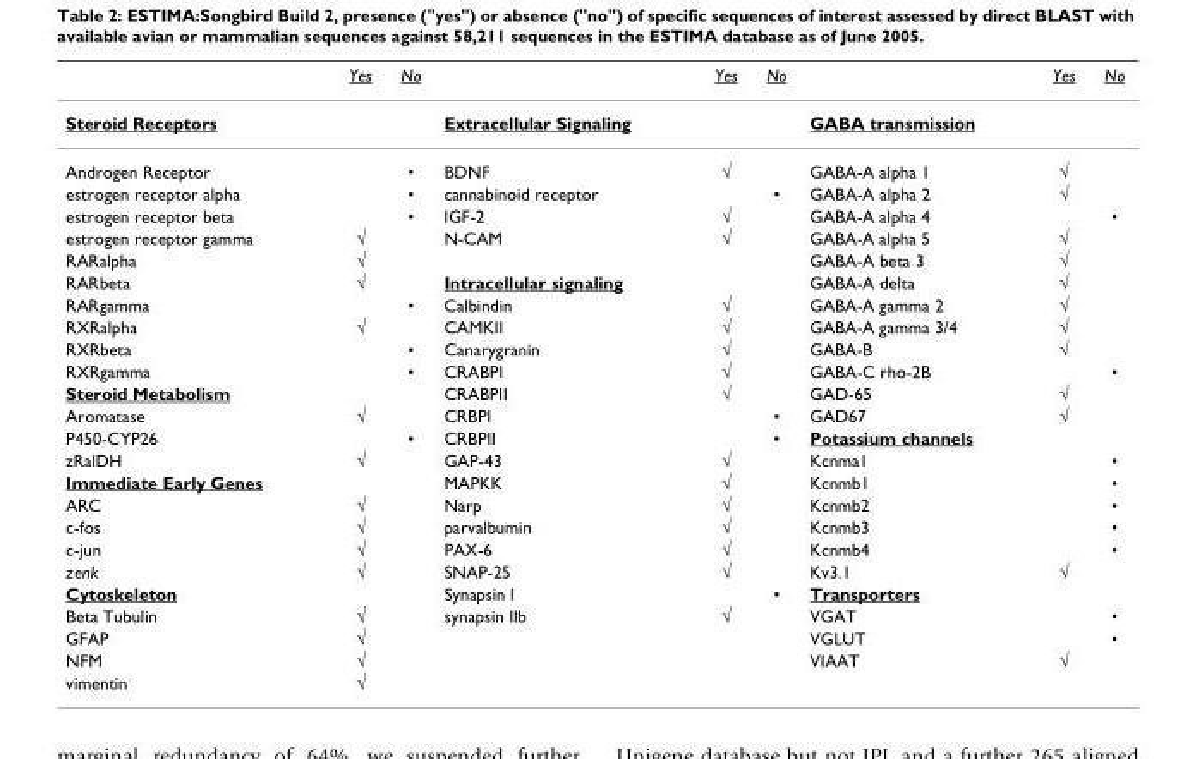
<table><thead><tr><td></td><td>Yes</td><td>No</td><td></td><td>Yes</td><td>No</td><td></td><td>Yes</td><td>No</td></tr></thead><tbody><tr><td>Steroid Receptors</td><td></td><td></td><td>Extracellular Signaling</td><td></td><td></td><td>GABA transmission</td><td></td><td></td></tr><tr><td>Androgen Receptor</td><td></td><td>•</td><td>BDNF</td><td>√</td><td></td><td>GABA-A alpha 1</td><td>√</td><td></td></tr><tr><td>estrogen receptor alpha</td><td></td><td>•</td><td>cannabinoid receptor</td><td></td><td>•</td><td>GABA-A alpha 2</td><td>√</td><td></td></tr><tr><td>estrogen receptor beta</td><td></td><td>•</td><td>IGF-2</td><td>√</td><td></td><td>GABA-A alpha 4</td><td></td><td>•</td></tr><tr><td>estrogen receptor gamma</td><td>√</td><td></td><td>N-CAM</td><td>√</td><td></td><td>GABA-A alpha 5</td><td>√</td><td></td></tr><tr><td>RARalpha</td><td>√</td><td></td><td></td><td></td><td></td><td>GABA-A beta 3</td><td>√</td><td></td></tr><tr><td>RARbeta</td><td>√</td><td></td><td>Intracellular signaling</td><td></td><td></td><td>GABA-A delta</td><td>√</td><td></td></tr><tr><td>RARgamma</td><td></td><td>•</td><td>Calbindin</td><td>√</td><td></td><td>GABA-A gamma 2</td><td>√</td><td></td></tr><tr><td>RXRalpha</td><td>√</td><td></td><td>CAMKII</td><td>√</td><td></td><td>GABA-A gamma 3/4</td><td>√</td><td></td></tr><tr><td>RXRbeta</td><td></td><td>•</td><td>Canarygranin</td><td>√</td><td></td><td>GABA-B</td><td>√</td><td></td></tr><tr><td>RXRgamma</td><td></td><td>•</td><td>CRABPI</td><td>√</td><td></td><td>GABA-C rho-2B</td><td></td><td>•</td></tr><tr><td>Steroid Metabolism</td><td></td><td></td><td>CRABPII</td><td>√</td><td></td><td>GAD-65</td><td>√</td><td></td></tr><tr><td>Aromatase</td><td>√</td><td></td><td>CRBPI</td><td></td><td>•</td><td>GAD67</td><td>√</td><td></td></tr><tr><td>P450-CYP26</td><td></td><td>•</td><td>CRBPII</td><td></td><td>•</td><td>Potassium channels</td><td></td><td></td></tr><tr><td>zRalDH</td><td>√</td><td></td><td>GAP-43</td><td>√</td><td></td><td>Kcnma1</td><td></td><td>•</td></tr><tr><td>Immediate Early Genes</td><td></td><td></td><td>MAPKK</td><td>√</td><td></td><td>Kcnmb1</td><td></td><td>•</td></tr><tr><td>ARC</td><td>√</td><td></td><td>Narp</td><td>√</td><td></td><td>Kcnmb2</td><td></td><td>•</td></tr><tr><td>c-fos</td><td>√</td><td></td><td>parvalbumin</td><td>√</td><td></td><td>Kcnmb3</td><td></td><td>•</td></tr><tr><td>c-jun</td><td>√</td><td></td><td>PAX-6</td><td>√</td><td></td><td>Kcnmb4</td><td></td><td>•</td></tr><tr><td>zenk</td><td>√</td><td></td><td>SNAP-25</td><td>√</td><td></td><td>Kv3.1</td><td>√</td><td></td></tr><tr><td>Cytoskeleton</td><td></td><td></td><td>Synapsin I</td><td></td><td>•</td><td>Transporters</td><td></td><td></td></tr><tr><td>Beta Tubulin</td><td>√</td><td></td><td>synapsin IIb</td><td>√</td><td></td><td>VGAT</td><td></td><td>•</td></tr><tr><td>GFAP</td><td>√</td><td></td><td></td><td></td><td></td><td>VGLUT</td><td></td><td>•</td></tr><tr><td>NFM</td><td>√</td><td></td><td></td><td></td><td></td><td>VIAAT</td><td>√</td><td></td></tr><tr><td>vimentin</td><td>√</td><td></td><td></td><td></td><td></td><td></td><td></td><td></td></tr></tbody></table>